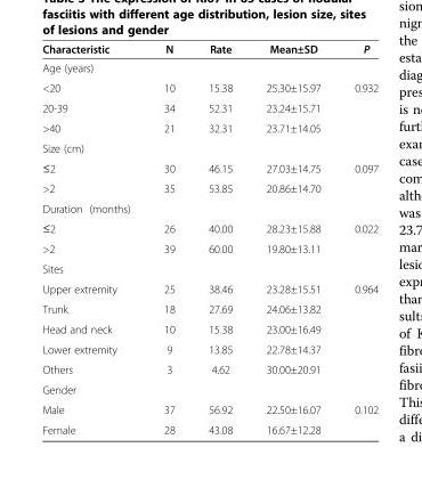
<table><thead><tr><td>Characteristic</td><td>N</td><td>Rate</td><td>Mean±SD</td><td>P</td></tr></thead><tbody><tr><td colspan="5">Age (years)</td></tr><tr><td>&lt;20</td><td>10</td><td>15.38</td><td>25.30±15.97</td><td>0.932</td></tr><tr><td>20-39</td><td>34</td><td>52.31</td><td>23.24±15.71</td><td></td></tr><tr><td>&gt;40</td><td>21</td><td>32.31</td><td>23.71±14.05</td><td></td></tr><tr><td colspan="5">Size (cm)</td></tr><tr><td>≤2</td><td>30</td><td>46.15</td><td>27.03±14.75</td><td>0.097</td></tr><tr><td>&gt;2</td><td>35</td><td>53.85</td><td>20.86±14.70</td><td></td></tr><tr><td colspan="5">Duration (months)</td></tr><tr><td>≤2</td><td>26</td><td>40.00</td><td>28.23±15.88</td><td>0.022</td></tr><tr><td>&gt;2</td><td>39</td><td>60.00</td><td>19.80±13.11</td><td></td></tr><tr><td colspan="5">Sites</td></tr><tr><td>Upper extremity</td><td>25</td><td>38.46</td><td>23.28±15.51</td><td>0.964</td></tr><tr><td>Trunk</td><td>18</td><td>27.69</td><td>24.06±13.82</td><td></td></tr><tr><td>Head and neck</td><td>10</td><td>15.38</td><td>23.00±16.49</td><td></td></tr><tr><td>Lower extremity</td><td>9</td><td>13.85</td><td>22.78±14.37</td><td></td></tr><tr><td>Others</td><td>3</td><td>4.62</td><td>30.00±20.91</td><td></td></tr><tr><td colspan="5">Gender</td></tr><tr><td>Male</td><td>37</td><td>56.92</td><td>22.50±16.07</td><td>0.102</td></tr><tr><td>Female</td><td>28</td><td>43.08</td><td>16.67±12.28</td><td></td></tr></tbody></table>